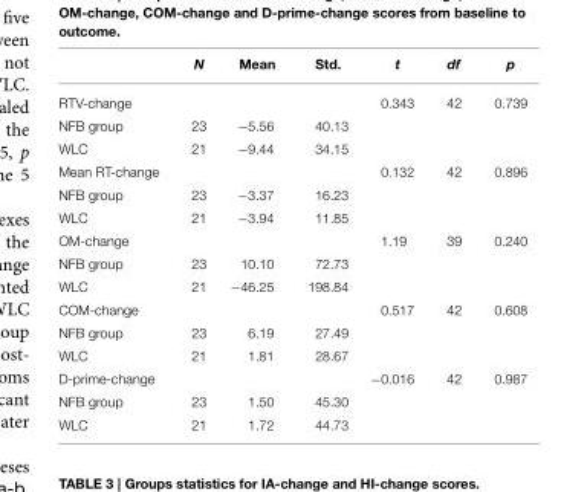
<table><thead><tr><td></td><td>N</td><td>Mean</td><td>Std.</td><td>t</td><td>df</td><td>p</td></tr></thead><tbody><tr><td>RTV-change</td><td></td><td></td><td></td><td>0.343</td><td>42</td><td>0.739</td></tr><tr><td>NFB group</td><td>23</td><td>−5.56</td><td>40.13</td><td></td><td></td><td></td></tr><tr><td>WLC</td><td>21</td><td>−9.44</td><td>34.15</td><td></td><td></td><td></td></tr><tr><td>Mean RT-change</td><td></td><td></td><td></td><td>0.132</td><td>42</td><td>0.896</td></tr><tr><td>NFB group</td><td>23</td><td>−3.37</td><td>16.23</td><td></td><td></td><td></td></tr><tr><td>WLC</td><td>21</td><td>−3.94</td><td>11.85</td><td></td><td></td><td></td></tr><tr><td>OM-change</td><td></td><td></td><td></td><td>1.19</td><td>39</td><td>0.240</td></tr><tr><td>NFB group</td><td>23</td><td>10.10</td><td>72.73</td><td></td><td></td><td></td></tr><tr><td>WLC</td><td>21</td><td>−46.25</td><td>198.84</td><td></td><td></td><td></td></tr><tr><td>COM-change</td><td></td><td></td><td></td><td>0.517</td><td>42</td><td>0.608</td></tr><tr><td>NFB group</td><td>23</td><td>6.19</td><td>27.49</td><td></td><td></td><td></td></tr><tr><td>WLC</td><td>21</td><td>1.81</td><td>28.67</td><td></td><td></td><td></td></tr><tr><td>D-prime-change</td><td></td><td></td><td></td><td>−0.016</td><td>42</td><td>0.987</td></tr><tr><td>NFB group</td><td>23</td><td>1.50</td><td>45.30</td><td></td><td></td><td></td></tr><tr><td>WLC</td><td>21</td><td>1.72</td><td>44.73</td><td></td><td></td><td></td></tr></tbody></table>